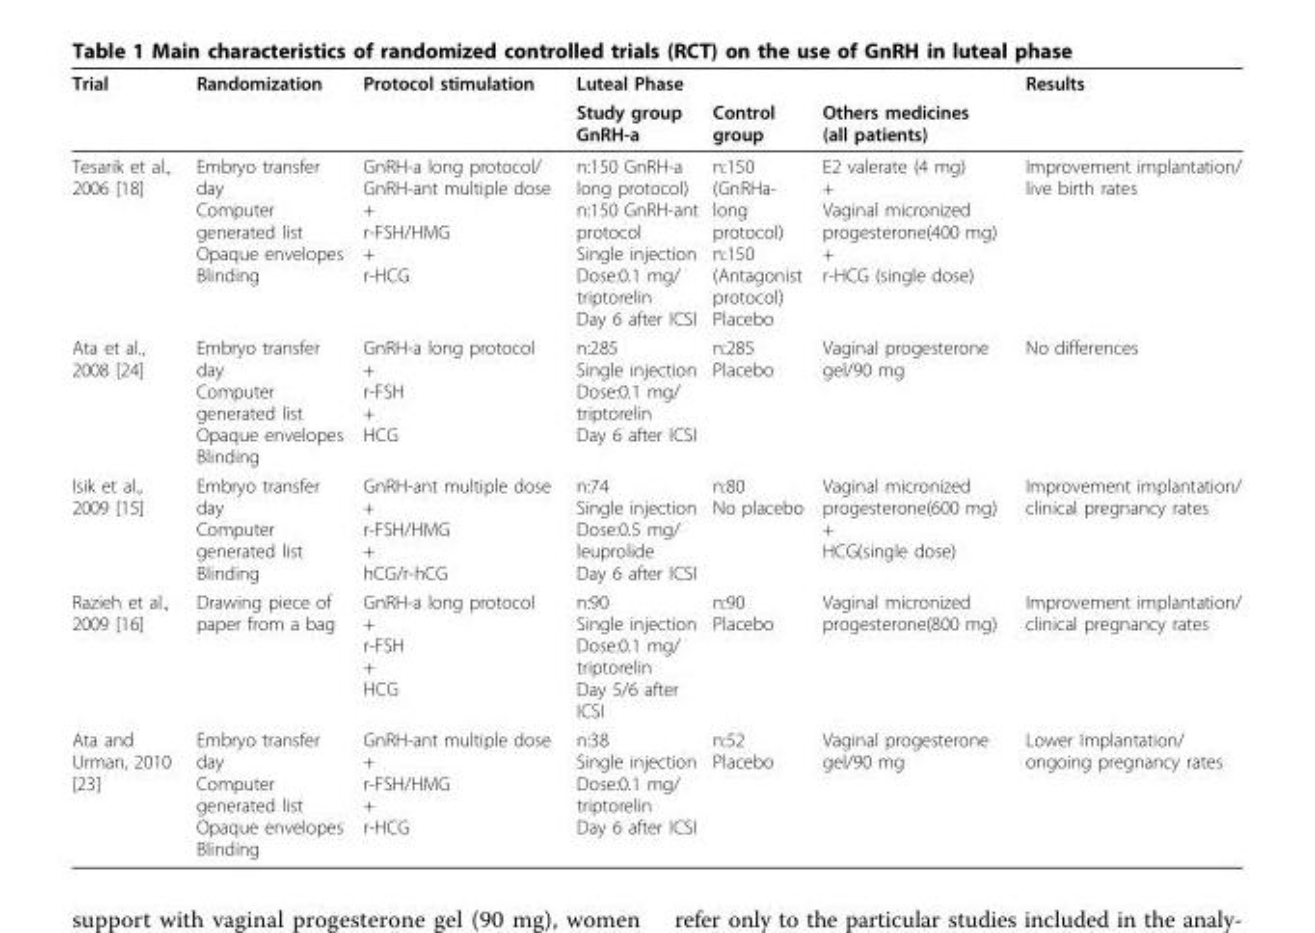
<table><thead><tr><td rowspan="2">Trial</td><td rowspan="2">Randomization</td><td rowspan="2">Protocol stimulation</td><td colspan="3">Luteal Phase</td><td rowspan="2">Results</td></tr><tr><td>Study group GnRH-a</td><td>Control group</td><td>Others medicines (all patients)</td></tr></thead><tbody><tr><td>Tesarik et al., 2006 [18]</td><td>Embryo transfer day Computer generated list Opaque envelopes Blinding</td><td>GnRH-a long protocol/ GnRH-ant multiple dose + r-FSH/HMG + r-HCG</td><td>n:150 GnRH-a long protocol) n:150 GnRH-ant protocol Single injection Dose:0.1 mg/ triptorelin Day 6 after ICSI</td><td>n:150 (GnRHa- long protocol) n:150 (Antagonist protocol) Placebo</td><td>E2 valerate (4 mg) + Vaginal micronized progesterone(400 mg) + r-HCG (single dose)</td><td>Improvement implantation/ live birth rates</td></tr><tr><td>Ata et al., 2008 [24]</td><td>Embryo transfer day Computer generated list Opaque envelopes Blinding</td><td>GnRH-a long protocol + r-FSH + HCG</td><td>n:285 Single injection Dose:0.1 mg/ triptorelin Day 6 after ICSI</td><td>n:285 Placebo</td><td>Vaginal progesterone gel/90 mg</td><td>No differences</td></tr><tr><td>Isik et al., 2009 [15]</td><td>Embryo transfer day Computer generated list Blinding</td><td>GnRH-ant multiple dose + r-FSH/HMG + hCG/r-hCG</td><td>n:74 Single injection Dose:0.5 mg/ leuprolide Day 6 after ICSI</td><td>n:80 No placebo</td><td>Vaginal micronized progesterone(600 mg) + HCG(single dose)</td><td>Improvement implantation/ clinical pregnancy rates</td></tr><tr><td>Razieh et al., 2009 [16]</td><td>Drawing piece of paper from a bag</td><td>GnRH-a long protocol + r-FSH + HCG</td><td>n:90 Single injection Dose:0.1 mg/ triptorelin Day 5/6 after ICSI</td><td>n:90 Placebo</td><td>Vaginal micronized progesterone(800 mg)</td><td>Improvement implantation/ clinical pregnancy rates</td></tr><tr><td>Ata and Urman, 2010 [23]</td><td>Embryo transfer day Computer generated list Opaque envelopes Blinding</td><td>GnRH-ant multiple dose + r-FSH/HMG + r-HCG</td><td>n:38 Single injection Dose:0.1 mg/ triptorelin Day 6 after ICSI</td><td>n:52 Placebo</td><td>Vaginal progesterone gel/90 mg</td><td>Lower Implantation/ ongoing pregnancy rates</td></tr></tbody></table>